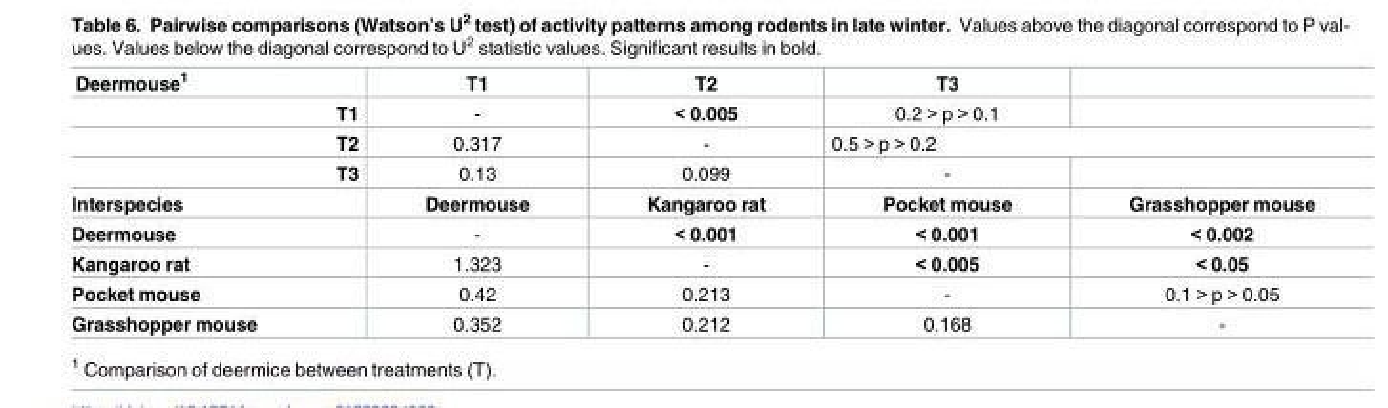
<table><thead><tr><td>Deermouse<sup>1</sup></td><td>T1</td><td>T2</td><td>T3</td><td></td></tr></thead><tbody><tr><td>T1</td><td>-</td><td>&lt; 0.005</td><td>0.2 &gt; p &gt; 0.1</td><td></td></tr><tr><td>T2</td><td>0.317</td><td>-</td><td colspan="2">0.5 &gt; p &gt; 0.2</td></tr><tr><td>T3</td><td>0.13</td><td>0.099</td><td>-</td><td></td></tr><tr><td>Interspecies</td><td>Deermouse</td><td>Kangaroo rat</td><td>Pocket mouse</td><td>Grasshopper mouse</td></tr><tr><td>Deermouse</td><td>-</td><td>&lt; 0.001</td><td>&lt; 0.001</td><td>&lt; 0.002</td></tr><tr><td>Kangaroo rat</td><td>1.323</td><td>-</td><td>&lt; 0.005</td><td>&lt; 0.05</td></tr><tr><td>Pocket mouse</td><td>0.42</td><td>0.213</td><td>-</td><td>0.1 &gt; p &gt; 0.05</td></tr><tr><td>Grasshopper mouse</td><td>0.352</td><td>0.212</td><td>0.168</td><td>-</td></tr></tbody></table>